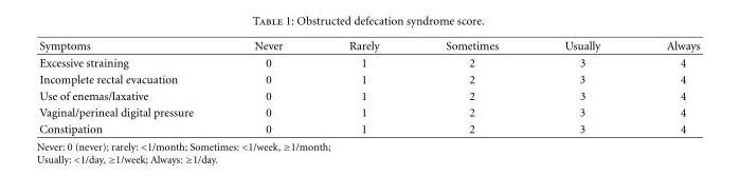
<table><thead><tr><td>Symptoms</td><td>Never</td><td>Rarely</td><td>Sometimes</td><td>Usually</td><td>Always</td></tr></thead><tbody><tr><td>Excessive straining</td><td>0</td><td>1</td><td>2</td><td>3</td><td>4</td></tr><tr><td>Incomplete rectal evacuation</td><td>0</td><td>1</td><td>2</td><td>3</td><td>4</td></tr><tr><td>Use of enemas/laxative</td><td>0</td><td>1</td><td>2</td><td>3</td><td>4</td></tr><tr><td>Vaginal/perineal digital pressure</td><td>0</td><td>1</td><td>2</td><td>3</td><td>4</td></tr><tr><td>Constipation</td><td>0</td><td>1</td><td>2</td><td>3</td><td>4</td></tr></tbody></table>